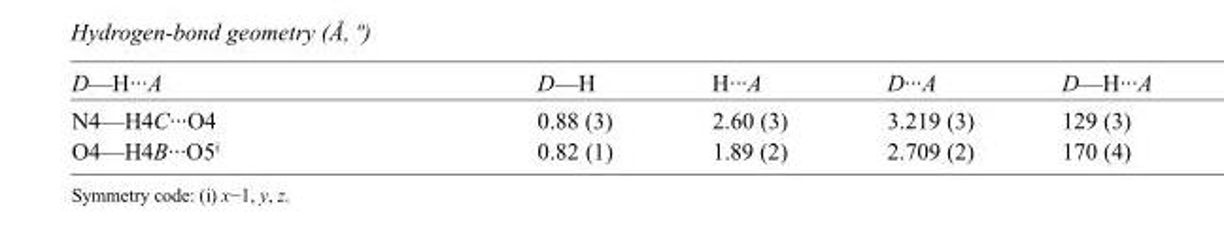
<table><tbody><tr><td>D—H···A</td><td>D—H</td><td>H···A</td><td>D···A</td><td>D—H···A</td></tr><tr><td>N4—H4C···O4</td><td>0.88 (3)</td><td>2.60 (3)</td><td>3.219 (3)</td><td>129 (3)</td></tr><tr><td>O4—H4B···O5<sup>i</sup></td><td>0.82 (1)</td><td>1.89 (2)</td><td>2.709 (2)</td><td>170 (4)</td></tr></tbody></table>